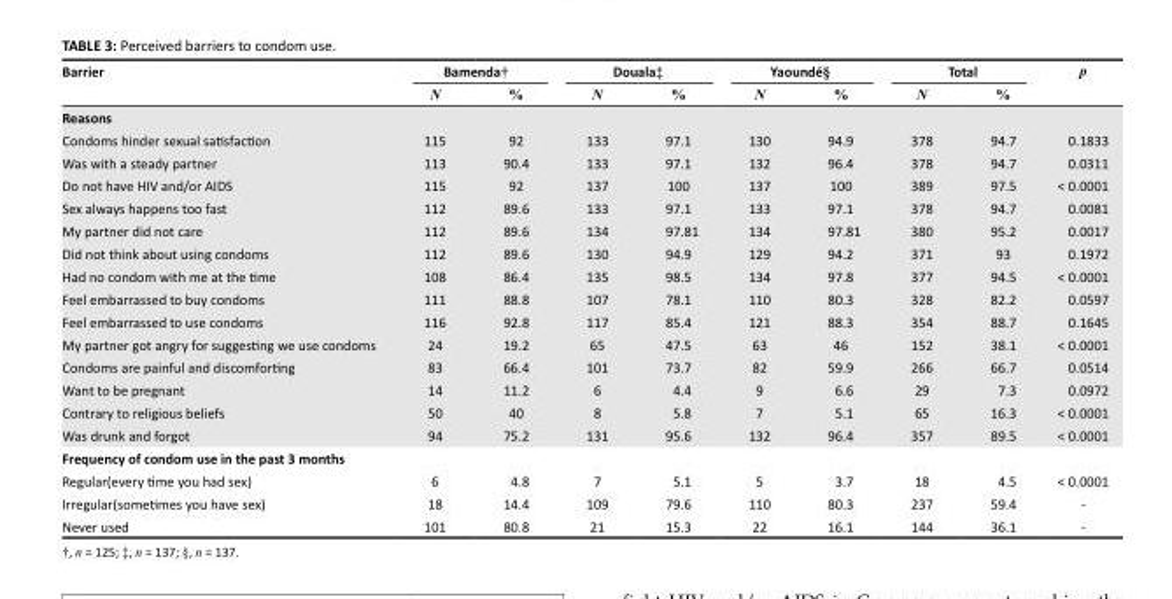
<table><thead><tr><td rowspan="2">Barrier</td><td colspan="2">Bamenda†</td><td colspan="2">Douala‡</td><td colspan="2">Yaoundé§</td><td colspan="2">Total</td><td rowspan="2">p</td></tr><tr><td>N</td><td>%</td><td>N</td><td>%</td><td>N</td><td>%</td><td>N</td><td>%</td></tr></thead><tbody><tr><td colspan="10">Reasons</td></tr><tr><td>Condoms hinder sexual satisfaction</td><td>115</td><td>92</td><td>133</td><td>97.1</td><td>130</td><td>94.9</td><td>378</td><td>94.7</td><td>0.1833</td></tr><tr><td>Was with a steady partner</td><td>113</td><td>90.4</td><td>133</td><td>97.1</td><td>132</td><td>96.4</td><td>378</td><td>94.7</td><td>0.0311</td></tr><tr><td>Do not have HIV and/or AIDS</td><td>115</td><td>92</td><td>137</td><td>100</td><td>137</td><td>100</td><td>389</td><td>97.5</td><td>&lt; 0.0001</td></tr><tr><td>Sex always happens too fast</td><td>112</td><td>89.6</td><td>133</td><td>97.1</td><td>133</td><td>97.1</td><td>378</td><td>94.7</td><td>0.0081</td></tr><tr><td>My partner did not care</td><td>112</td><td>89.6</td><td>134</td><td>97.81</td><td>134</td><td>97.81</td><td>380</td><td>95.2</td><td>0.0017</td></tr><tr><td>Did not think about using condoms</td><td>112</td><td>89.6</td><td>130</td><td>94.9</td><td>129</td><td>94.2</td><td>371</td><td>93</td><td>0.1972</td></tr><tr><td>Had no condom with me at the time</td><td>108</td><td>86.4</td><td>135</td><td>98.5</td><td>134</td><td>97.8</td><td>377</td><td>94.5</td><td>&lt; 0.0001</td></tr><tr><td>Feel embarrassed to buy condoms</td><td>111</td><td>88.8</td><td>107</td><td>78.1</td><td>110</td><td>80.3</td><td>328</td><td>82.2</td><td>0.0597</td></tr><tr><td>Feel embarrassed to use condoms</td><td>116</td><td>92.8</td><td>117</td><td>85.4</td><td>121</td><td>88.3</td><td>354</td><td>88.7</td><td>0.1645</td></tr><tr><td>My partner got angry for suggesting we use condoms</td><td>24</td><td>19.2</td><td>65</td><td>47.5</td><td>63</td><td>46</td><td>152</td><td>38.1</td><td>&lt; 0.0001</td></tr><tr><td>Condoms are painful and discomforting</td><td>83</td><td>66.4</td><td>101</td><td>73.7</td><td>82</td><td>59.9</td><td>266</td><td>66.7</td><td>0.0514</td></tr><tr><td>Want to be pregnant</td><td>14</td><td>11.2</td><td>6</td><td>4.4</td><td>9</td><td>6.6</td><td>29</td><td>7.3</td><td>0.0972</td></tr><tr><td>Contrary to religious beliefs</td><td>50</td><td>40</td><td>8</td><td>5.8</td><td>7</td><td>5.1</td><td>65</td><td>16.3</td><td>&lt; 0.0001</td></tr><tr><td>Was drunk and forgot</td><td>94</td><td>75.2</td><td>131</td><td>95.6</td><td>132</td><td>96.4</td><td>357</td><td>89.5</td><td>&lt; 0.0001</td></tr><tr><td colspan="10">Frequency of condom use in the past 3 months</td></tr><tr><td>Regular(every time you had sex)</td><td>6</td><td>4.8</td><td>7</td><td>5.1</td><td>5</td><td>3.7</td><td>18</td><td>4.5</td><td>&lt; 0.0001</td></tr><tr><td>Irregular(sometimes you have sex)</td><td>18</td><td>14.4</td><td>109</td><td>79.6</td><td>110</td><td>80.3</td><td>237</td><td>59.4</td><td>-</td></tr><tr><td>Never used</td><td>101</td><td>80.8</td><td>21</td><td>15.3</td><td>22</td><td>16.1</td><td>144</td><td>36.1</td><td>-</td></tr></tbody></table>